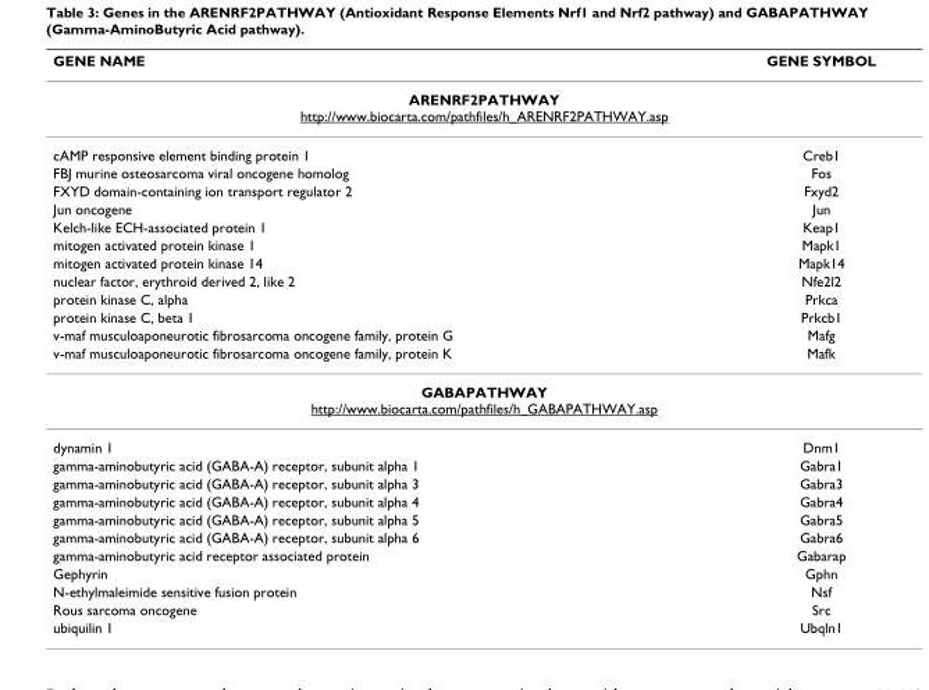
<table><thead><tr><td>GENE NAME</td><td>GENE SYMBOL</td></tr></thead><tbody><tr><td colspan="2">ARENRF2PATHWAY http://www.biocarta.com/pathfiles/h_ARENRF2PATHWAY.asp</td></tr><tr><td>cAMP responsive element binding protein 1</td><td>Creb1</td></tr><tr><td>FBJ murine osteosarcoma viral oncogene homolog</td><td>Fos</td></tr><tr><td>FXYD domain-containing ion transport regulator 2</td><td>Fxyd2</td></tr><tr><td>Jun oncogene</td><td>Jun</td></tr><tr><td>Kelch-like ECH-associated protein 1</td><td>Keap1</td></tr><tr><td>mitogen activated protein kinase 1</td><td>Mapk1</td></tr><tr><td>mitogen activated protein kinase 14</td><td>Mapk14</td></tr><tr><td>nuclear factor, erythroid derived 2, like 2</td><td>Nfe2l2</td></tr><tr><td>protein kinase C, alpha</td><td>Prkca</td></tr><tr><td>protein kinase C, beta 1</td><td>Prkcb1</td></tr><tr><td>v-maf musculoaponeurotic fibrosarcoma oncogene family, protein G</td><td>Mafg</td></tr><tr><td>v-maf musculoaponeurotic fibrosarcoma oncogene family, protein K</td><td>Mafk</td></tr><tr><td colspan="2">GABAPATHWAY http://www.biocarta.com/pathfiles/h_GABAPATHWAY.asp</td></tr><tr><td>dynamin 1</td><td>Dnm1</td></tr><tr><td>gamma-aminobutyric acid (GABA-A) receptor, subunit alpha 1</td><td>Gabra1</td></tr><tr><td>gamma-aminobutyric acid (GABA-A) receptor, subunit alpha 3</td><td>Gabra3</td></tr><tr><td>gamma-aminobutyric acid (GABA-A) receptor, subunit alpha 4</td><td>Gabra4</td></tr><tr><td>gamma-aminobutyric acid (GABA-A) receptor, subunit alpha 5</td><td>Gabra5</td></tr><tr><td>gamma-aminobutyric acid (GABA-A) receptor, subunit alpha 6</td><td>Gabra6</td></tr><tr><td>gamma-aminobutyric acid receptor associated protein</td><td>Gabarap</td></tr><tr><td>Gephyrin</td><td>Gphn</td></tr><tr><td>N-ethylmaleimide sensitive fusion protein</td><td>Nsf</td></tr><tr><td>Rous sarcoma oncogene</td><td>Src</td></tr><tr><td>ubiquilin 1</td><td>Ubqln1</td></tr></tbody></table>